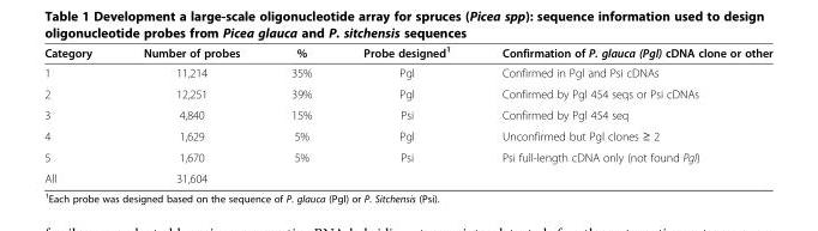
<table><thead><tr><td>Category</td><td>Number of probes</td><td>%</td><td>Probe designed<sup>1</sup></td><td>Confirmation of P. glauca (Pgl) cDNA clone or other</td></tr></thead><tbody><tr><td>1</td><td>11,214</td><td>35%</td><td>Pgl</td><td>Confirmed in Pgl and Psi cDNAs</td></tr><tr><td>2</td><td>12,251</td><td>39%</td><td>Pgl</td><td>Confirmed by Pgl 454 seqs or Psi cDNAs</td></tr><tr><td>3</td><td>4,840</td><td>15%</td><td>Psi</td><td>Confirmed by Pgl 454 seq</td></tr><tr><td>4</td><td>1,629</td><td>5%</td><td>Pgl</td><td>Unconfirmed but Pgl clones ≥ 2</td></tr><tr><td>5</td><td>1,670</td><td>5%</td><td>Psi</td><td>Psi full-length cDNA only (not found Pgl)</td></tr><tr><td>All</td><td>31,604</td><td></td><td></td><td></td></tr></tbody></table>